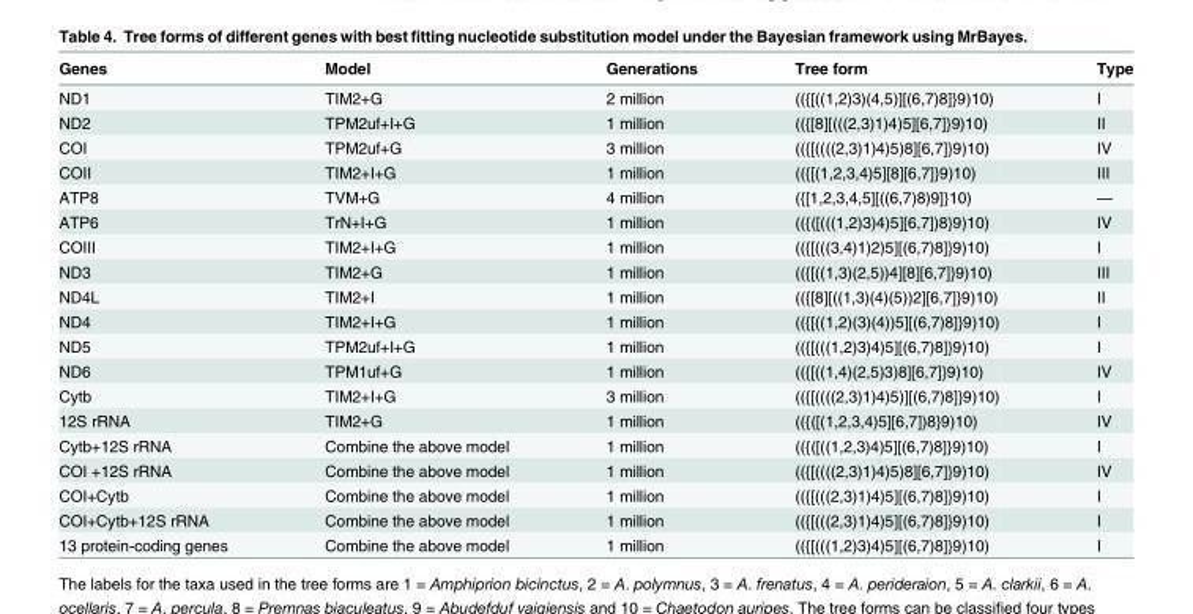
<table><thead><tr><td>Genes</td><td>Model</td><td>Generations</td><td>Tree form</td><td>Type</td></tr></thead><tbody><tr><td>ND1</td><td>TIM2+G</td><td>2 million</td><td>(({[((1,2)3)(4,5)][(6,7)8]}9)10)</td><td>I</td></tr><tr><td>ND2</td><td>TPM2uf+I+G</td><td>1 million</td><td>(({[8][(((2,3)1)4)5][6,7]}9)10)</td><td>II</td></tr><tr><td>COI</td><td>TPM2uf+G</td><td>3 million</td><td>(({[((((2,3)1)4)5)8][6,7]}9)10)</td><td>IV</td></tr><tr><td>COII</td><td>TIM2+I+G</td><td>1 million</td><td>(({[(1,2,3,4)5][8][6,7]}9)10)</td><td>III</td></tr><tr><td>ATP8</td><td>TVM+G</td><td>4 million</td><td>({[1,2,3,4,5][((6,7)8)9]}10)</td><td>—</td></tr><tr><td>ATP6</td><td>TrN+I+G</td><td>1 million</td><td>(({([(((1,2)3)4)5][6,7])8}9)10)</td><td>IV</td></tr><tr><td>COIII</td><td>TIM2+I+G</td><td>1 million</td><td>(({[(((3,4)1)2)5][(6,7)8]}9)10)</td><td>I</td></tr><tr><td>ND3</td><td>TIM2+G</td><td>1 million</td><td>(({[((1,3)(2,5))4][8][6,7]}9)10)</td><td>III</td></tr><tr><td>ND4L</td><td>TIM2+I</td><td>1 million</td><td>(({[8][((1,3)(4)(5))2][6,7]}9)10)</td><td>II</td></tr><tr><td>ND4</td><td>TIM2+I+G</td><td>1 million</td><td>(({[((1,2)(3)(4))5][(6,7)8]}9)10)</td><td>I</td></tr><tr><td>ND5</td><td>TPM2uf+I+G</td><td>1 million</td><td>(({[(((1,2)3)4)5][(6,7)8]}9)10)</td><td>I</td></tr><tr><td>ND6</td><td>TPM1uf+G</td><td>1 million</td><td>(({[((1,4)(2,5)3)8][6,7]}9)10)</td><td>IV</td></tr><tr><td>Cytb</td><td>TIM2+I+G</td><td>3 million</td><td>(({[((((2,3)1)4)5)][(6,7)8]}9)10)</td><td>I</td></tr><tr><td>12S rRNA</td><td>TIM2+G</td><td>1 million</td><td>(({([(1,2,3,4)5][6,7])8}9)10)</td><td>IV</td></tr><tr><td>Cytb+12S rRNA</td><td>Combine the above model</td><td>1 million</td><td>(({([((1,2,3)4)5][(6,7)8]}9)10)</td><td>I</td></tr><tr><td>COI +12S rRNA</td><td>Combine the above model</td><td>1 million</td><td>(({[((((2,3)1)4)5)8][6,7]}9)10)</td><td>IV</td></tr><tr><td>COI+Cytb</td><td>Combine the above model</td><td>1 million</td><td>(({[(((2,3)1)4)5][(6,7)8]}9)10)</td><td>I</td></tr><tr><td>COI+Cytb+12S rRNA</td><td>Combine the above model</td><td>1 million</td><td>(({[(((2,3)1)4)5][(6,7)8]}9)10)</td><td>I</td></tr><tr><td>13 protein-coding genes</td><td>Combine the above model</td><td>1 million</td><td>(({[(((1,2)3)4)5][(6,7)8]}9)10)</td><td>I</td></tr></tbody></table>